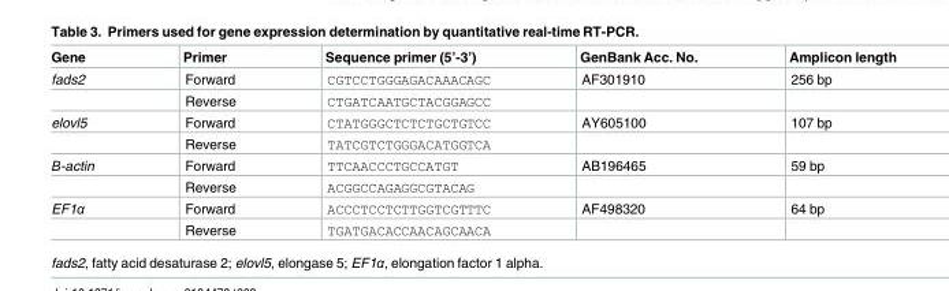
<table><thead><tr><td>Gene</td><td>Primer</td><td>Sequence primer (5’-3’)</td><td>GenBank Acc. No.</td><td>Amplicon length</td></tr></thead><tbody><tr><td rowspan="2">fads2</td><td>Forward</td><td>CGTCCTGGGAGACAAACAGC</td><td>AF301910</td><td>256 bp</td></tr><tr><td>Reverse</td><td>CTGATCAATGCTACGGAGCC</td><td></td><td></td></tr><tr><td rowspan="2">elovl5</td><td>Forward</td><td>CTATGGGCTCTCTGCTGTCC</td><td>AY605100</td><td>107 bp</td></tr><tr><td>Reverse</td><td>TATCGTCTGGGACATGGTCA</td><td></td><td></td></tr><tr><td rowspan="2">Β-actin</td><td>Forward</td><td>TTCAACCCTGCCATGT</td><td>AB196465</td><td>59 bp</td></tr><tr><td>Reverse</td><td>ACGGCCAGAGGCGTACAG</td><td></td><td></td></tr><tr><td rowspan="2">EF1α</td><td>Forward</td><td>ACCCTCCTCTTGGTCGTTTC</td><td>AF498320</td><td>64 bp</td></tr><tr><td>Reverse</td><td>TGATGACACCAACAGCAACA</td><td></td><td></td></tr></tbody></table>